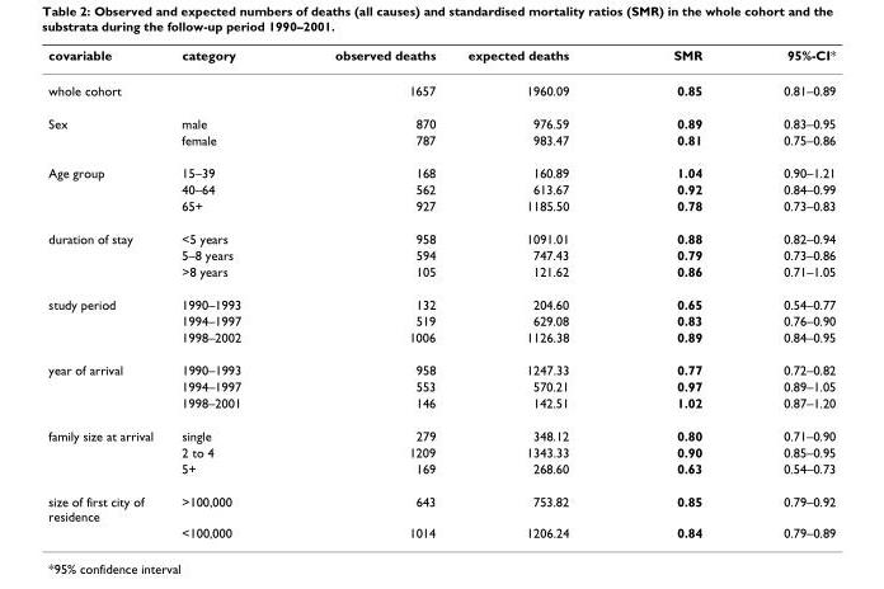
<table><thead><tr><td>covariable</td><td>category</td><td>observed deaths</td><td>expected deaths</td><td>SMR</td><td>95%-CI*</td></tr></thead><tbody><tr><td>whole cohort</td><td></td><td>1657</td><td>1960.09</td><td>0.85</td><td>0.81–0.89</td></tr><tr><td rowspan="2">Sex</td><td>male</td><td>870</td><td>976.59</td><td>0.89</td><td>0.83–0.95</td></tr><tr><td>female</td><td>787</td><td>983.47</td><td>0.81</td><td>0.75–0.86</td></tr><tr><td rowspan="3">Age group</td><td>15–39</td><td>168</td><td>160.89</td><td>1.04</td><td>0.90–1.21</td></tr><tr><td>40–64</td><td>562</td><td>613.67</td><td>0.92</td><td>0.84–0.99</td></tr><tr><td>65+</td><td>927</td><td>1185.50</td><td>0.78</td><td>0.73–0.83</td></tr><tr><td rowspan="3">duration of stay</td><td>&lt;5 years</td><td>958</td><td>1091.01</td><td>0.88</td><td>0.82–0.94</td></tr><tr><td>5–8 years</td><td>594</td><td>747.43</td><td>0.79</td><td>0.73–0.86</td></tr><tr><td>&gt;8 years</td><td>105</td><td>121.62</td><td>0.86</td><td>0.71–1.05</td></tr><tr><td rowspan="3">study period</td><td>1990–1993</td><td>132</td><td>204.60</td><td>0.65</td><td>0.54–0.77</td></tr><tr><td>1994–1997</td><td>519</td><td>629.08</td><td>0.83</td><td>0.76–0.90</td></tr><tr><td>1998–2002</td><td>1006</td><td>1126.38</td><td>0.89</td><td>0.84–0.95</td></tr><tr><td rowspan="3">year of arrival</td><td>1990–1993</td><td>958</td><td>1247.33</td><td>0.77</td><td>0.72–0.82</td></tr><tr><td>1994–1997</td><td>553</td><td>570.21</td><td>0.97</td><td>0.89–1.05</td></tr><tr><td>1998–2001</td><td>146</td><td>142.51</td><td>1.02</td><td>0.87–1.20</td></tr><tr><td rowspan="3">family size at arrival</td><td>single</td><td>279</td><td>348.12</td><td>0.80</td><td>0.71–0.90</td></tr><tr><td>2 to 4</td><td>1209</td><td>1343.33</td><td>0.90</td><td>0.85–0.95</td></tr><tr><td>5+</td><td>169</td><td>268.60</td><td>0.63</td><td>0.54–0.73</td></tr><tr><td rowspan="2">size of first city of residence</td><td>&gt;100,000</td><td>643</td><td>753.82</td><td>0.85</td><td>0.79–0.92</td></tr><tr><td>&lt;100,000</td><td>1014</td><td>1206.24</td><td>0.84</td><td>0.79–0.89</td></tr></tbody></table>